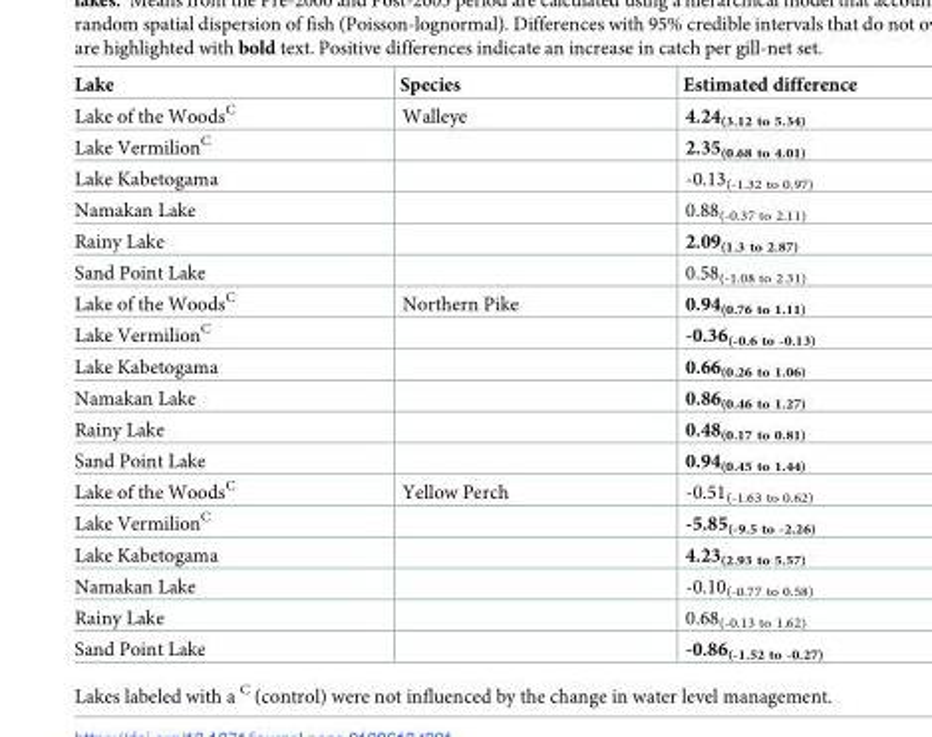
<table><thead><tr><td>Lake</td><td>Species</td><td>Estimated difference</td></tr></thead><tbody><tr><td>Lake of the Woods<sup>C</sup></td><td>Walleye</td><td>4.24<sub>(3.12 to 5.34)</sub></td></tr><tr><td>Lake Vermilion<sup>C</sup></td><td></td><td>2.35<sub>(0.68 to 4.01)</sub></td></tr><tr><td>Lake Kabetogama</td><td></td><td>-0.13<sub>(-1.32 to 0.97)</sub></td></tr><tr><td>Namakan Lake</td><td></td><td>0.88<sub>(-0.37 to 2.11)</sub></td></tr><tr><td>Rainy Lake</td><td></td><td>2.09<sub>(1.3 to 2.87)</sub></td></tr><tr><td>Sand Point Lake</td><td></td><td>0.58<sub>(-1.08 to 2.31)</sub></td></tr><tr><td>Lake of the Woods<sup>C</sup></td><td>Northern Pike</td><td>0.94<sub>(0.76 to 1.11)</sub></td></tr><tr><td>Lake Vermilion<sup>C</sup></td><td></td><td>-0.36<sub>(-0.6 to -0.13)</sub></td></tr><tr><td>Lake Kabetogama</td><td></td><td>0.66<sub>(0.26 to 1.06)</sub></td></tr><tr><td>Namakan Lake</td><td></td><td>0.86<sub>(0.46 to 1.27)</sub></td></tr><tr><td>Rainy Lake</td><td></td><td>0.48<sub>(0.17 to 0.81)</sub></td></tr><tr><td>Sand Point Lake</td><td></td><td>0.94<sub>(0.45 to 1.44)</sub></td></tr><tr><td>Lake of the Woods<sup>C</sup></td><td>Yellow Perch</td><td>-0.51<sub>(-1.63 to 0.62)</sub></td></tr><tr><td>Lake Vermilion<sup>C</sup></td><td></td><td>-5.85<sub>(-9.5 to -2.26)</sub></td></tr><tr><td>Lake Kabetogama</td><td></td><td>4.23<sub>(2.93 to 5.57)</sub></td></tr><tr><td>Namakan Lake</td><td></td><td>-0.10<sub>(-0.77 to 0.58)</sub></td></tr><tr><td>Rainy Lake</td><td></td><td>0.68<sub>(-0.13 to 1.62)</sub></td></tr><tr><td>Sand Point Lake</td><td></td><td>-0.86<sub>(-1.52 to -0.27)</sub></td></tr></tbody></table>